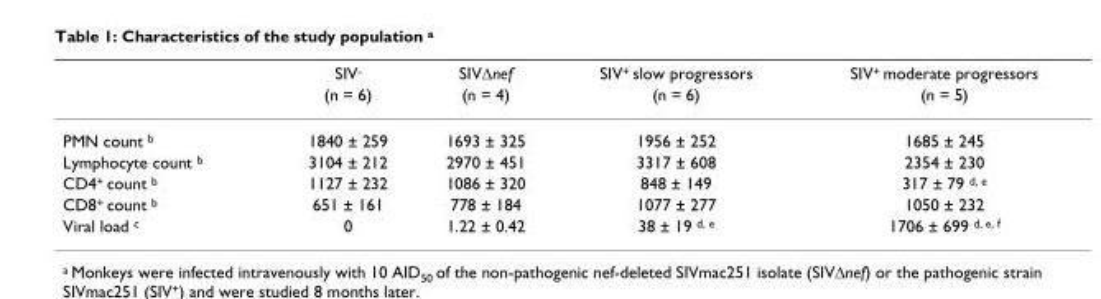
<table><thead><tr><td rowspan="2"></td><td rowspan="2">SIV<sup>-</sup> (n = 6)</td><td rowspan="2">SIVΔnef (n = 4)</td><td rowspan="2">SIV<sup>+</sup> slow progressors (n = 6)</td><td rowspan="2">SIV<sup>+</sup> moderate progressors (n = 5)</td></tr><tr></tr></thead><tbody><tr><td>PMN count <sup>b</sup></td><td>1840 ± 259</td><td>1693 ± 325</td><td>1956 ± 252</td><td>1685 ± 245</td></tr><tr><td>Lymphocyte count <sup>b</sup></td><td>3104 ± 212</td><td>2970 ± 451</td><td>3317 ± 608</td><td>2354 ± 230</td></tr><tr><td>CD4<sup>+</sup> count <sup>b</sup></td><td>1127 ± 232</td><td>1086 ± 320</td><td>848 ± 149</td><td>317 ± 79 <sup>d, e</sup></td></tr><tr><td>CD8<sup>+</sup> count <sup>b</sup></td><td>651 ± 161</td><td>778 ± 184</td><td>1077 ± 277</td><td>1050 ± 232</td></tr><tr><td>Viral load <sup>c</sup></td><td>0</td><td>1.22 ± 0.42</td><td>38 ± 19 <sup>d, e</sup></td><td>1706 ± 699 <sup>d, e, f</sup></td></tr></tbody></table>